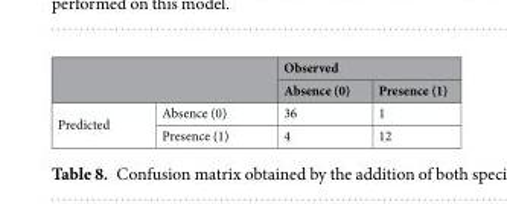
<table><thead><tr><td rowspan="2"></td><td rowspan="2"></td><td rowspan="2">Observed Absence (0)</td><td rowspan="2">Presence (1)</td></tr><tr></tr></thead><tbody><tr><td rowspan="2">Predicted</td><td>Absence (0)</td><td>36</td><td>1</td></tr><tr><td>Presence (1)</td><td>4</td><td>12</td></tr></tbody></table>